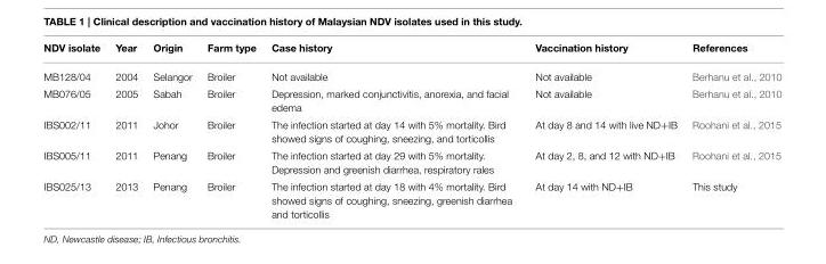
<table><thead><tr><td>NDV isolate</td><td>Year</td><td>Origin</td><td>Farm type</td><td>Case history</td><td>Vaccination history</td><td>References</td></tr></thead><tbody><tr><td>MB128/04</td><td>2004</td><td>Selangor</td><td>Broiler</td><td>Not available</td><td>Not available</td><td>Berhanu et al., 2010</td></tr><tr><td>MB076/05</td><td>2005</td><td>Sabah</td><td>Broiler</td><td>Depression, marked conjunctivitis, anorexia, and facial edema</td><td>Not available</td><td>Berhanu et al., 2010</td></tr><tr><td>IBS002/11</td><td>2011</td><td>Johor</td><td>Broiler</td><td>The infection started at day 14 with 5% mortality. Bird showed signs of coughing, sneezing, and torticollis</td><td>At day 8 and 14 with live ND+IB</td><td>Roohani et al., 2015</td></tr><tr><td>IBS005/11</td><td>2011</td><td>Penang</td><td>Broiler</td><td>The infection started at day 29 with 5% mortality. Depression and greenish diarrhea, respiratory rales</td><td>At day 2, 8, and 12 with ND+IB</td><td>Roohani et al., 2015</td></tr><tr><td>IBS025/13</td><td>2013</td><td>Penang</td><td>Broiler</td><td>The infection started at day 18 with 4% mortality. Bird showed signs of coughing, sneezing, greenish diarrhea and torticollis</td><td>At day 14 with ND+IB</td><td>This study</td></tr></tbody></table>